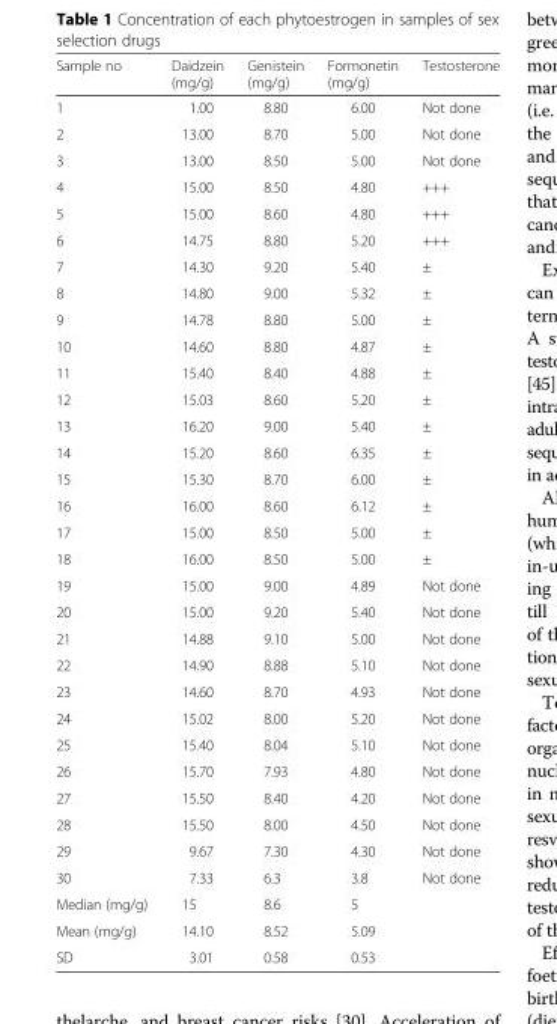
<table><thead><tr><td>Sample no</td><td>Daidzein (mg/g)</td><td>Genistein (mg/g)</td><td>Formonetin (mg/g)</td><td>Testosterone</td></tr></thead><tbody><tr><td>1</td><td>1.00</td><td>8.80</td><td>6.00</td><td>Not done</td></tr><tr><td>2</td><td>13.00</td><td>8.70</td><td>5.00</td><td>Not done</td></tr><tr><td>3</td><td>13.00</td><td>8.50</td><td>5.00</td><td>Not done</td></tr><tr><td>4</td><td>15.00</td><td>8.50</td><td>4.80</td><td>+++</td></tr><tr><td>5</td><td>15.00</td><td>8.60</td><td>4.80</td><td>+++</td></tr><tr><td>6</td><td>14.75</td><td>8.80</td><td>5.20</td><td>+++</td></tr><tr><td>7</td><td>14.30</td><td>9.20</td><td>5.40</td><td>±</td></tr><tr><td>8</td><td>14.80</td><td>9.00</td><td>5.32</td><td>±</td></tr><tr><td>9</td><td>14.78</td><td>8.80</td><td>5.00</td><td>±</td></tr><tr><td>10</td><td>14.60</td><td>8.80</td><td>4.87</td><td>±</td></tr><tr><td>11</td><td>15.40</td><td>8.40</td><td>4.88</td><td>±</td></tr><tr><td>12</td><td>15.03</td><td>8.60</td><td>5.20</td><td>±</td></tr><tr><td>13</td><td>16.20</td><td>9.00</td><td>5.40</td><td>±</td></tr><tr><td>14</td><td>15.20</td><td>8.60</td><td>6.35</td><td>±</td></tr><tr><td>15</td><td>15.30</td><td>8.70</td><td>6.00</td><td>±</td></tr><tr><td>16</td><td>16.00</td><td>8.60</td><td>6.12</td><td>±</td></tr><tr><td>17</td><td>15.00</td><td>8.50</td><td>5.00</td><td>±</td></tr><tr><td>18</td><td>16.00</td><td>8.50</td><td>5.00</td><td>±</td></tr><tr><td>19</td><td>15.00</td><td>9.00</td><td>4.89</td><td>Not done</td></tr><tr><td>20</td><td>15.00</td><td>9.20</td><td>5.40</td><td>Not done</td></tr><tr><td>21</td><td>14.88</td><td>9.10</td><td>5.00</td><td>Not done</td></tr><tr><td>22</td><td>14.90</td><td>8.88</td><td>5.10</td><td>Not done</td></tr><tr><td>23</td><td>14.60</td><td>8.70</td><td>4.93</td><td>Not done</td></tr><tr><td>24</td><td>15.02</td><td>8.00</td><td>5.20</td><td>Not done</td></tr><tr><td>25</td><td>15.40</td><td>8.04</td><td>5.10</td><td>Not done</td></tr><tr><td>26</td><td>15.70</td><td>7.93</td><td>4.80</td><td>Not done</td></tr><tr><td>27</td><td>15.50</td><td>8.40</td><td>4.20</td><td>Not done</td></tr><tr><td>28</td><td>15.50</td><td>8.00</td><td>4.50</td><td>Not done</td></tr><tr><td>29</td><td>9.67</td><td>7.30</td><td>4.30</td><td>Not done</td></tr><tr><td>30</td><td>7.33</td><td>6.3</td><td>3.8</td><td>Not done</td></tr><tr><td>Median (mg/g)</td><td>15</td><td>8.6</td><td>5</td><td></td></tr><tr><td>Mean (mg/g)</td><td>14.10</td><td>8.52</td><td>5.09</td><td></td></tr><tr><td>SD</td><td>3.01</td><td>0.58</td><td>0.53</td><td></td></tr></tbody></table>